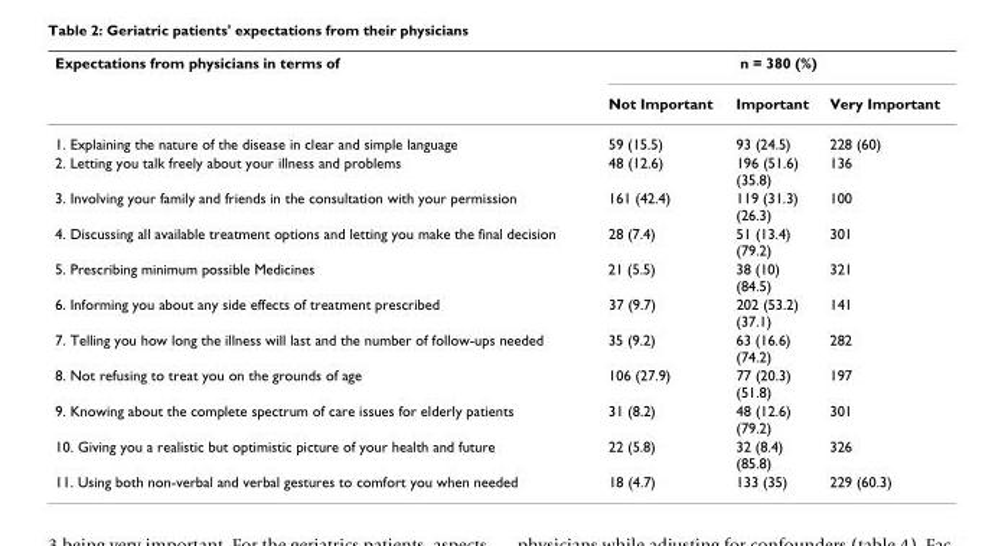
<table><thead><tr><td rowspan="2">Expectations from physicians in terms of</td><td colspan="3">n = 380 (%)</td></tr><tr><td>Not Important</td><td>Important</td><td>Very Important</td></tr></thead><tbody><tr><td>1. Explaining the nature of the disease in clear and simple language</td><td>59 (15.5)</td><td>93 (24.5)</td><td>228 (60)</td></tr><tr><td>2. Letting you talk freely about your illness and problems</td><td>48 (12.6)</td><td>196 (51.6) (35.8)</td><td>136</td></tr><tr><td>3. Involving your family and friends in the consultation with your permission</td><td>161 (42.4)</td><td>119 (31.3) (26.3)</td><td>100</td></tr><tr><td>4. Discussing all available treatment options and letting you make the final decision</td><td>28 (7.4)</td><td>51 (13.4) (79.2)</td><td>301</td></tr><tr><td>5. Prescribing minimum possible Medicines</td><td>21 (5.5)</td><td>38 (10) (84.5)</td><td>321</td></tr><tr><td>6. Informing you about any side effects of treatment prescribed</td><td>37 (9.7)</td><td>202 (53.2) (37.1)</td><td>141</td></tr><tr><td>7. Telling you how long the illness will last and the number of follow-ups needed</td><td>35 (9.2)</td><td>63 (16.6) (74.2)</td><td>282</td></tr><tr><td>8. Not refusing to treat you on the grounds of age</td><td>106 (27.9)</td><td>77 (20.3) (51.8)</td><td>197</td></tr><tr><td>9. Knowing about the complete spectrum of care issues for elderly patients</td><td>31 (8.2)</td><td>48 (12.6) (79.2)</td><td>301</td></tr><tr><td>10. Giving you a realistic but optimistic picture of your health and future</td><td>22 (5.8)</td><td>32 (8.4) (85.8)</td><td>326</td></tr><tr><td>11. Using both non-verbal and verbal gestures to comfort you when needed</td><td>18 (4.7)</td><td>133 (35)</td><td>229 (60.3)</td></tr></tbody></table>